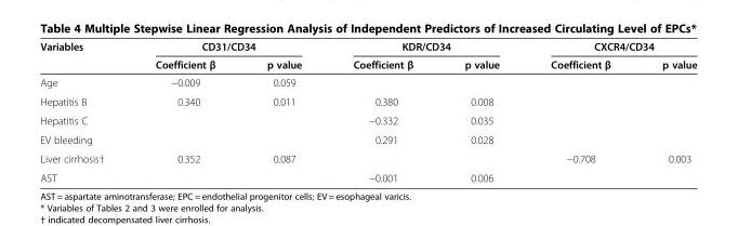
<table><thead><tr><td rowspan="2">Variables</td><td colspan="2">CD31/CD34</td><td colspan="2">KDR/CD34</td><td colspan="2">CXCR4/CD34</td></tr><tr><td>Coefficient β</td><td>p value</td><td>Coefficient β</td><td>p value</td><td>Coefficient β</td><td>p value</td></tr></thead><tbody><tr><td>Age</td><td>−0.009</td><td>0.059</td><td></td><td></td><td></td><td></td></tr><tr><td>Hepatitis B</td><td>0.340</td><td>0.011</td><td>0.380</td><td>0.008</td><td></td><td></td></tr><tr><td>Hepatitis C</td><td></td><td></td><td>−0.332</td><td>0.035</td><td></td><td></td></tr><tr><td>EV bleeding</td><td></td><td></td><td>0.291</td><td>0.028</td><td></td><td></td></tr><tr><td>Liver cirrhosis†</td><td>0.352</td><td>0.087</td><td></td><td></td><td>−0.708</td><td>0.003</td></tr><tr><td>AST</td><td></td><td></td><td>−0.001</td><td>0.006</td><td></td><td></td></tr></tbody></table>